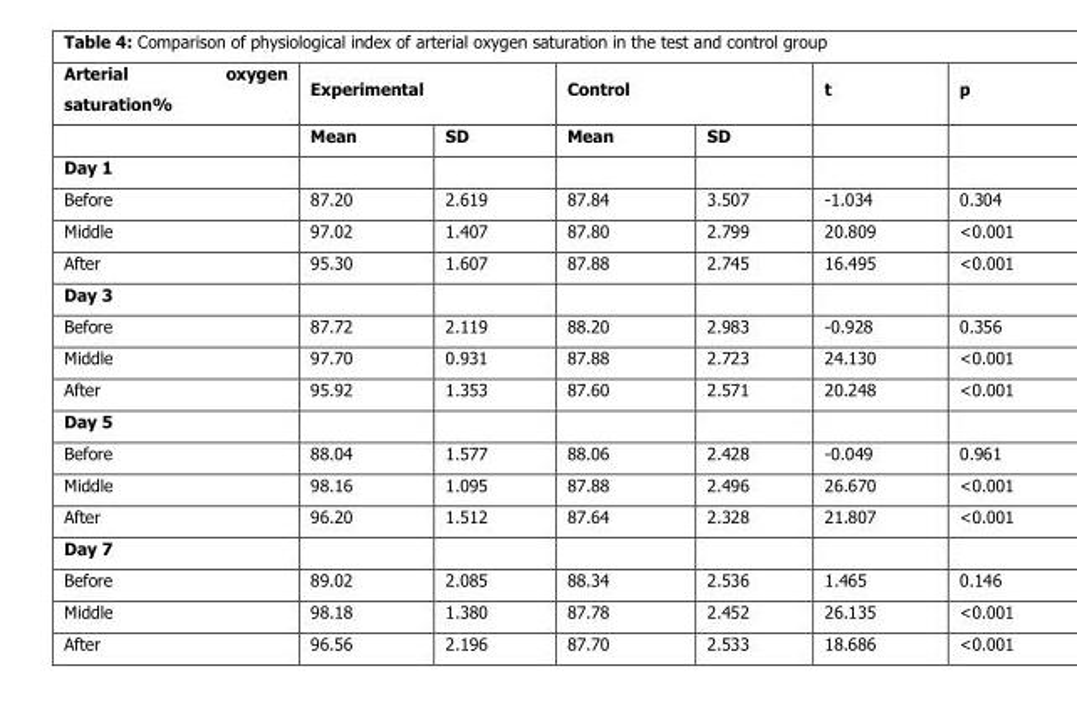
<table><thead><tr><td rowspan="2">Arterial oxygen saturation%</td><td colspan="2">Experimental</td><td colspan="2">Control</td><td rowspan="2">t</td><td rowspan="2">p</td></tr><tr><td>Mean</td><td>SD</td><td>Mean</td><td>SD</td></tr></thead><tbody><tr><td colspan="7">Day 1</td></tr><tr><td>Before</td><td>87.20</td><td>2.619</td><td>87.84</td><td>3.507</td><td>-1.034</td><td>0.304</td></tr><tr><td>Middle</td><td>97.02</td><td>1.407</td><td>87.80</td><td>2.799</td><td>20.809</td><td>&lt;0.001</td></tr><tr><td>After</td><td>95.30</td><td>1.607</td><td>87.88</td><td>2.745</td><td>16.495</td><td>&lt;0.001</td></tr><tr><td colspan="7">Day 3</td></tr><tr><td>Before</td><td>87.72</td><td>2.119</td><td>88.20</td><td>2.983</td><td>-0.928</td><td>0.356</td></tr><tr><td>Middle</td><td>97.70</td><td>0.931</td><td>87.88</td><td>2.723</td><td>24.130</td><td>&lt;0.001</td></tr><tr><td>After</td><td>95.92</td><td>1.353</td><td>87.60</td><td>2.571</td><td>20.248</td><td>&lt;0.001</td></tr><tr><td colspan="7">Day 5</td></tr><tr><td>Before</td><td>88.04</td><td>1.577</td><td>88.06</td><td>2.428</td><td>-0.049</td><td>0.961</td></tr><tr><td>Middle</td><td>98.16</td><td>1.095</td><td>87.88</td><td>2.496</td><td>26.670</td><td>&lt;0.001</td></tr><tr><td>After</td><td>96.20</td><td>1.512</td><td>87.64</td><td>2.328</td><td>21.807</td><td>&lt;0.001</td></tr><tr><td colspan="7">Day 7</td></tr><tr><td>Before</td><td>89.02</td><td>2.085</td><td>88.34</td><td>2.536</td><td>1.465</td><td>0.146</td></tr><tr><td>Middle</td><td>98.18</td><td>1.380</td><td>87.78</td><td>2.452</td><td>26.135</td><td>&lt;0.001</td></tr><tr><td>After</td><td>96.56</td><td>2.196</td><td>87.70</td><td>2.533</td><td>18.686</td><td>&lt;0.001</td></tr></tbody></table>